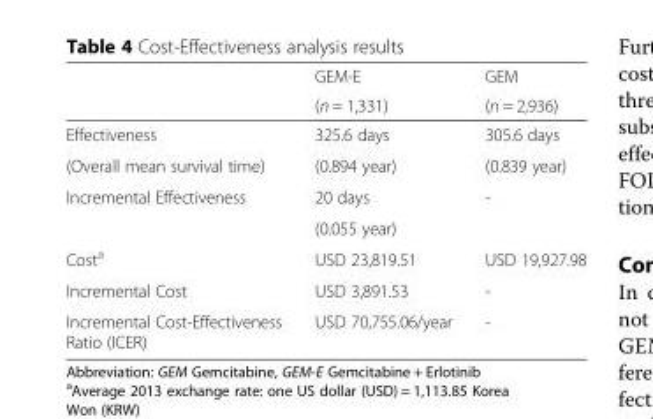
<table><thead><tr><td rowspan="2"></td><td rowspan="2">GEM-E (n = 1,331)</td><td rowspan="2">GEM (n = 2,936)</td></tr><tr></tr></thead><tbody><tr><td>Effectiveness</td><td>325.6 days</td><td>305.6 days</td></tr><tr><td>(Overall mean survival time)</td><td>(0.894 year)</td><td>(0.839 year)</td></tr><tr><td rowspan="2">Incremental Effectiveness</td><td>20 days</td><td rowspan="2">-</td></tr><tr><td>(0.055 year)</td></tr><tr><td>Cost<sup>a</sup></td><td>USD 23,819.51</td><td>USD 19,927.98</td></tr><tr><td>Incremental Cost</td><td>USD 3,891.53</td><td>-</td></tr><tr><td>Incremental Cost-Effectiveness Ratio (ICER)</td><td>USD 70,755.06/year</td><td>-</td></tr></tbody></table>